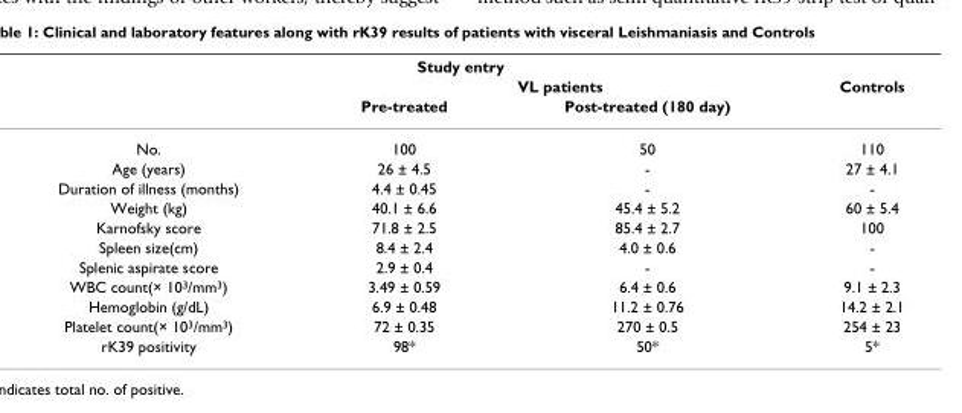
<table><thead><tr><td colspan="4">Study entry</td></tr><tr><td rowspan="2"></td><td colspan="2">VL patients</td><td rowspan="2">Controls</td></tr><tr><td>Pre-treated</td><td>Post-treated (180 day)</td></tr></thead><tbody><tr><td>No.</td><td>100</td><td>50</td><td>110</td></tr><tr><td>Age (years)</td><td>26 ± 4.5</td><td>-</td><td>27 ± 4.1</td></tr><tr><td>Duration of illness (months)</td><td>4.4 ± 0.45</td><td>-</td><td>-</td></tr><tr><td>Weight (kg)</td><td>40.1 ± 6.6</td><td>45.4 ± 5.2</td><td>60 ± 5.4</td></tr><tr><td>Karnofsky score</td><td>71.8 ± 2.5</td><td>85.4 ± 2.7</td><td>100</td></tr><tr><td>Spleen size(cm)</td><td>8.4 ± 2.4</td><td>4.0 ± 0.6</td><td>-</td></tr><tr><td>Splenic aspirate score</td><td>2.9 ± 0.4</td><td>-</td><td>-</td></tr><tr><td>WBC count(× 10<sup>3</sup>/mm<sup>3</sup>)</td><td>3.49 ± 0.59</td><td>6.4 ± 0.6</td><td>9.1 ± 2.3</td></tr><tr><td>Hemoglobin (g/dL)</td><td>6.9 ± 0.48</td><td>11.2 ± 0.76</td><td>14.2 ± 2.1</td></tr><tr><td>Platelet count(× 10<sup>3</sup>/mm<sup>3</sup>)</td><td>72 ± 0.35</td><td>270 ± 0.5</td><td>254 ± 23</td></tr><tr><td>rK39 positivity</td><td>98*</td><td>50*</td><td>5*</td></tr></tbody></table>